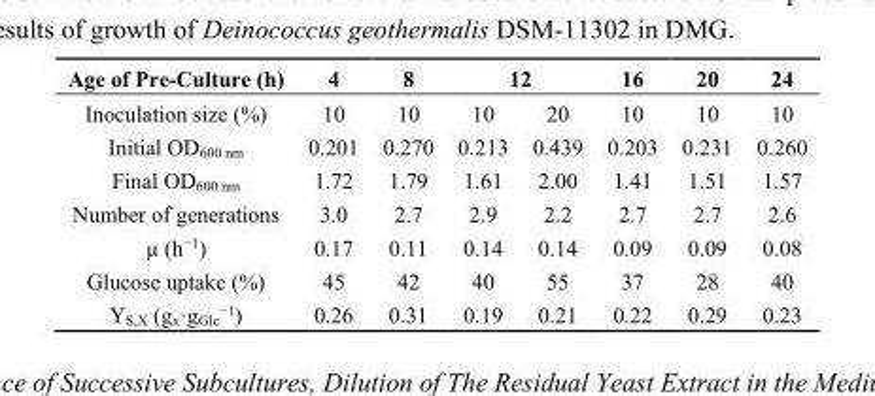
<table><thead><tr><td rowspan="2">Age of Pre-Culture (h) Inoculation size (%)</td><td rowspan="2">4 10</td><td rowspan="2">8 10</td><td colspan="2">12</td><td rowspan="2">16 10</td><td rowspan="2">20 10</td><td rowspan="2">24 10</td></tr><tr><td>10</td><td>20</td></tr></thead><tbody><tr><td>Initial OD<sub>600 nm</sub></td><td>0.201</td><td>0.270</td><td>0.213</td><td>0.439</td><td>0.203</td><td>0.231</td><td>0.260</td></tr><tr><td>Final OD<sub>600 nm</sub></td><td>1.72</td><td>1.79</td><td>1.61</td><td>2.00</td><td>1.41</td><td>1.51</td><td>1.57</td></tr><tr><td>Number of generations</td><td>3.0</td><td>2.7</td><td>2.9</td><td>2.2</td><td>2.7</td><td>2.7</td><td>2.6</td></tr><tr><td>µ (h<sup>−1</sup>)</td><td>0.17</td><td>0.11</td><td>0.14</td><td>0.14</td><td>0.09</td><td>0.09</td><td>0.08</td></tr><tr><td>Glucose uptake (%)</td><td>45</td><td>42</td><td>40</td><td>55</td><td>37</td><td>28</td><td>40</td></tr><tr><td>Y<sub>S,X</sub> (g<sub>x</sub>·g<sub>Glc</sub><sup>−1</sup>)</td><td>0.26</td><td>0.31</td><td>0.19</td><td>0.21</td><td>0.22</td><td>0.29</td><td>0.23</td></tr></tbody></table>